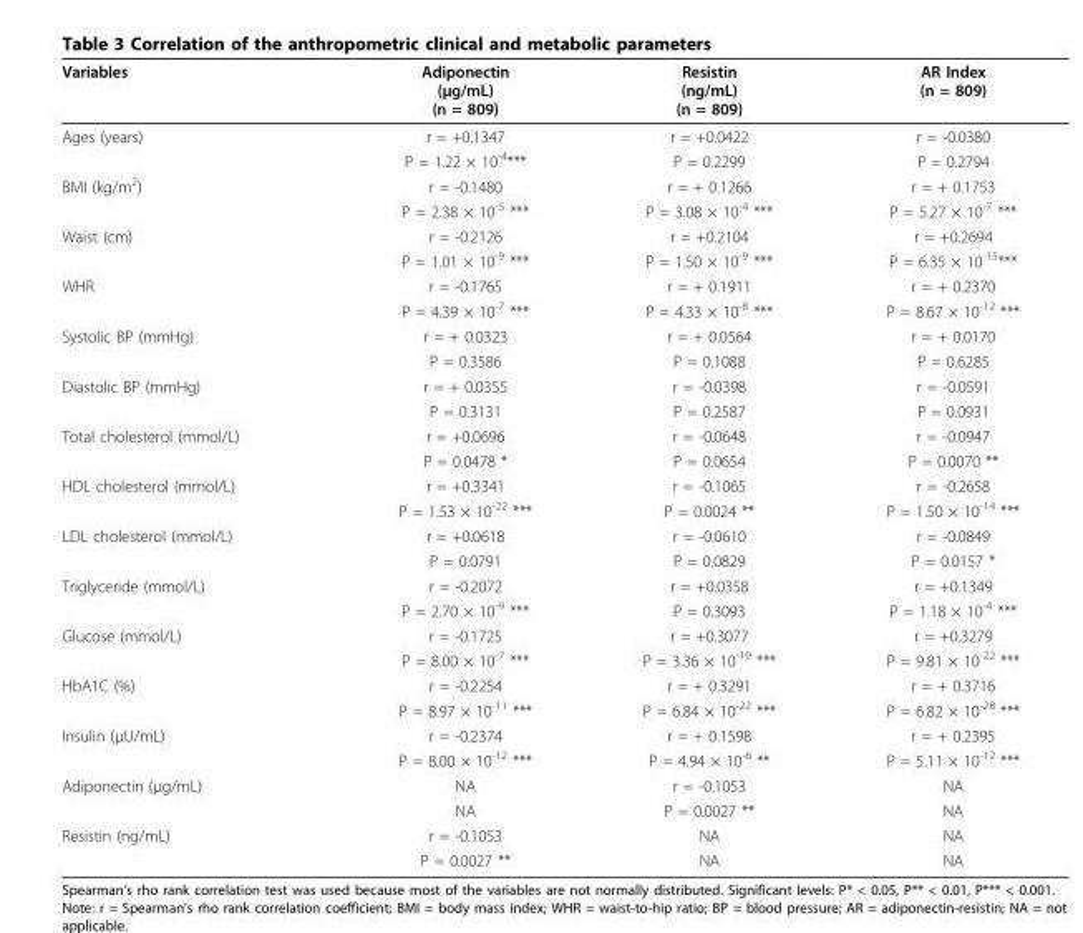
<table><thead><tr><td>Variables</td><td>Adiponectin (μg/mL) (n = 809)</td><td>Resistin (ng/mL) (n = 809)</td><td>AR Index (n = 809)</td></tr></thead><tbody><tr><td rowspan="2">Ages (years)</td><td>r = +0.1347</td><td>r = +0.0422</td><td>r = -0.0380</td></tr><tr><td>P = 1.22 × 10<sup>-4</sup>***</td><td>P = 0.2299</td><td>P = 0.2794</td></tr><tr><td rowspan="2">BMI (kg/m<sup>2</sup>)</td><td>r = -0.1480</td><td>r = + 0.1266</td><td>r = + 0.1753</td></tr><tr><td>P = 2.38 × 10<sup>-5</sup> ***</td><td>P = 3.08 × 10<sup>-4</sup> ***</td><td>P = 5.27 × 10<sup>-7</sup> ***</td></tr><tr><td rowspan="2">Waist (cm)</td><td>r = -0.2126</td><td>r = +0.2104</td><td>r = +0.2694</td></tr><tr><td>P = 1.01 × 10<sup>-9</sup> ***</td><td>P = 1.50 × 10<sup>-9</sup> ***</td><td>P = 6.35 × 10<sup>-15</sup>***</td></tr><tr><td rowspan="2">WHR</td><td>r = -0.1765</td><td>r = + 0.1911</td><td>r = + 0.2370</td></tr><tr><td>P = 4.39 × 10<sup>-7</sup> ***</td><td>P = 4.33 × 10<sup>-8</sup> ***</td><td>P = 8.67 × 10<sup>-12</sup> ***</td></tr><tr><td rowspan="2">Systolic BP (mmHg)</td><td>r = + 0.0323</td><td>r = + 0.0564</td><td>r = + 0.0170</td></tr><tr><td>P = 0.3586</td><td>P = 0.1088</td><td>P = 0.6285</td></tr><tr><td rowspan="2">Diastolic BP (mmHg)</td><td>r = + 0.0355</td><td>r = -0.0398</td><td>r = -0.0591</td></tr><tr><td>P = 0.3131</td><td>P = 0.2587</td><td>P = 0.0931</td></tr><tr><td rowspan="2">Total cholesterol (mmol/L)</td><td>r = +0.0696</td><td>r = -0.0648</td><td>r = -0.0947</td></tr><tr><td>P = 0.0478 *</td><td>P = 0.0654</td><td>P = 0.0070 **</td></tr><tr><td rowspan="2">HDL cholesterol (mmol/L)</td><td>r = +0.3341</td><td>r = -0.1065</td><td>r = -0.2658</td></tr><tr><td>P = 1.53 × 10<sup>-22</sup> ***</td><td>P = 0.0024 **</td><td>P = 1.50 × 10<sup>-14</sup> ***</td></tr><tr><td rowspan="2">LDL cholesterol (mmol/L)</td><td>r = +0.0618</td><td>r = -0.0610</td><td>r = -0.0849</td></tr><tr><td>P = 0.0791</td><td>P = 0.0829</td><td>P = 0.0157 *</td></tr><tr><td rowspan="2">Triglyceride (mmol/L)</td><td>r = -0.2072</td><td>r = +0.0358</td><td>r = +0.1349</td></tr><tr><td>P = 2.70 × 10<sup>-9</sup> ***</td><td>P = 0.3093</td><td>P = 1.18 × 10<sup>-4</sup> ***</td></tr><tr><td rowspan="2">Glucose (mmol/L)</td><td>r = -0.1725</td><td>r = +0.3077</td><td>r = +0.3279</td></tr><tr><td>P = 8.00 × 10<sup>-7</sup> ***</td><td>P = 3.36 × 10<sup>-19</sup> ***</td><td>P = 9.81 × 10<sup>-22</sup> ***</td></tr><tr><td rowspan="2">HbA1C (%)</td><td>r = -0.2254</td><td>r = + 0.3291</td><td>r = + 0.3716</td></tr><tr><td>P = 8.97 × 10<sup>-11</sup> ***</td><td>P = 6.84 × 10<sup>-22</sup> ***</td><td>P = 6.82 × 10<sup>-28</sup> ***</td></tr><tr><td rowspan="2">Insulin (μU/mL)</td><td>r = -0.2374</td><td>r = + 0.1598</td><td>r = + 0.2395</td></tr><tr><td>P = 8.00 × 10<sup>-12</sup> ***</td><td>P = 4.94 × 10<sup>-6</sup> **</td><td>P = 5.11 × 10<sup>-12</sup> ***</td></tr><tr><td rowspan="2">Adiponectin (μg/mL)</td><td>NA</td><td>r = -0.1053</td><td>NA</td></tr><tr><td>NA</td><td>P = 0.0027 **</td><td>NA</td></tr><tr><td rowspan="2">Resistin (ng/mL)</td><td>r = -0.1053</td><td>NA</td><td>NA</td></tr><tr><td>P = 0.0027 **</td><td>NA</td><td>NA</td></tr></tbody></table>